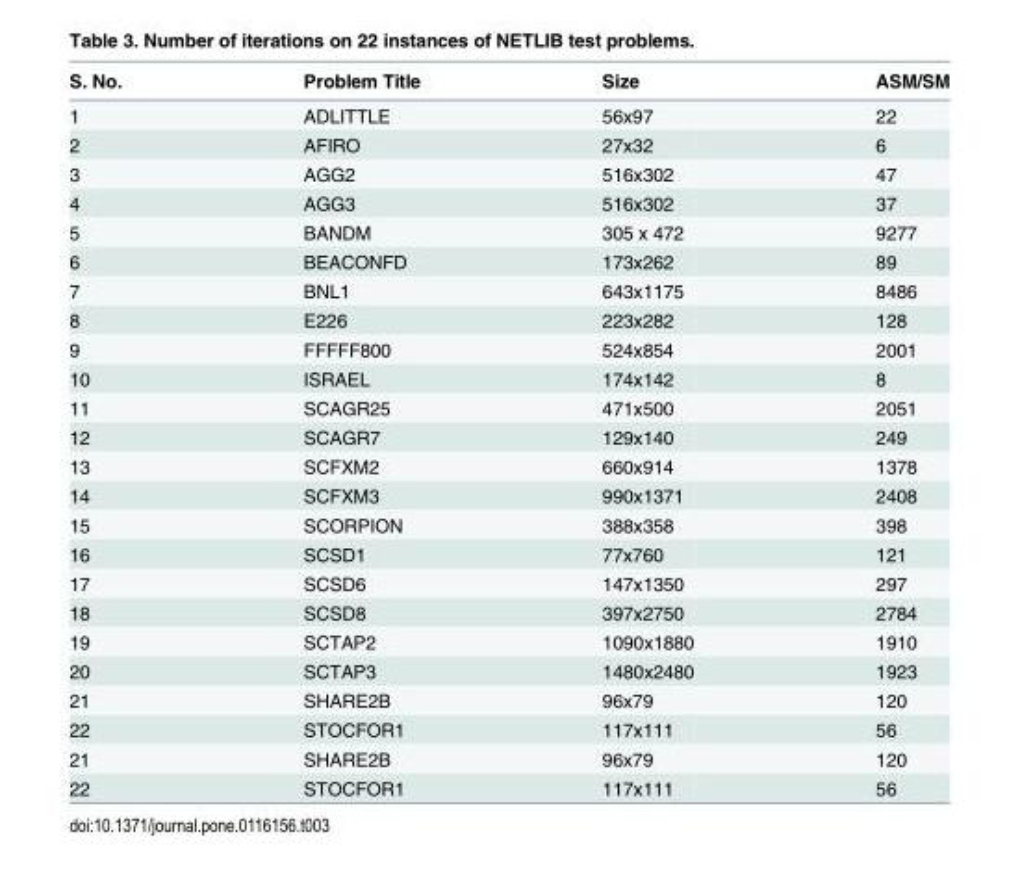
<table><thead><tr><td>S. No.</td><td>Problem Title</td><td>Size</td><td>ASM/SM</td></tr></thead><tbody><tr><td>1</td><td>ADLITTLE</td><td>56x97</td><td>22</td></tr><tr><td>2</td><td>AFIRO</td><td>27x32</td><td>6</td></tr><tr><td>3</td><td>AGG2</td><td>516x302</td><td>47</td></tr><tr><td>4</td><td>AGG3</td><td>516x302</td><td>37</td></tr><tr><td>5</td><td>BANDM</td><td>305 x 472</td><td>9277</td></tr><tr><td>6</td><td>BEACONFD</td><td>173x262</td><td>89</td></tr><tr><td>7</td><td>BNL1</td><td>643x1175</td><td>8486</td></tr><tr><td>8</td><td>E226</td><td>223x282</td><td>128</td></tr><tr><td>9</td><td>FFFFF800</td><td>524x854</td><td>2001</td></tr><tr><td>10</td><td>ISRAEL</td><td>174x142</td><td>8</td></tr><tr><td>11</td><td>SCAGR25</td><td>471x500</td><td>2051</td></tr><tr><td>12</td><td>SCAGR7</td><td>129x140</td><td>249</td></tr><tr><td>13</td><td>SCFXM2</td><td>660x914</td><td>1378</td></tr><tr><td>14</td><td>SCFXM3</td><td>990x1371</td><td>2408</td></tr><tr><td>15</td><td>SCORPION</td><td>388x358</td><td>398</td></tr><tr><td>16</td><td>SCSD1</td><td>77x760</td><td>121</td></tr><tr><td>17</td><td>SCSD6</td><td>147x1350</td><td>297</td></tr><tr><td>18</td><td>SCSD8</td><td>397x2750</td><td>2784</td></tr><tr><td>19</td><td>SCTAP2</td><td>1090x1880</td><td>1910</td></tr><tr><td>20</td><td>SCTAP3</td><td>1480x2480</td><td>1923</td></tr><tr><td>21</td><td>SHARE2B</td><td>96x79</td><td>120</td></tr><tr><td>22</td><td>STOCFOR1</td><td>117x111</td><td>56</td></tr><tr><td>21</td><td>SHARE2B</td><td>96x79</td><td>120</td></tr><tr><td>22</td><td>STOCFOR1</td><td>117x111</td><td>56</td></tr></tbody></table>